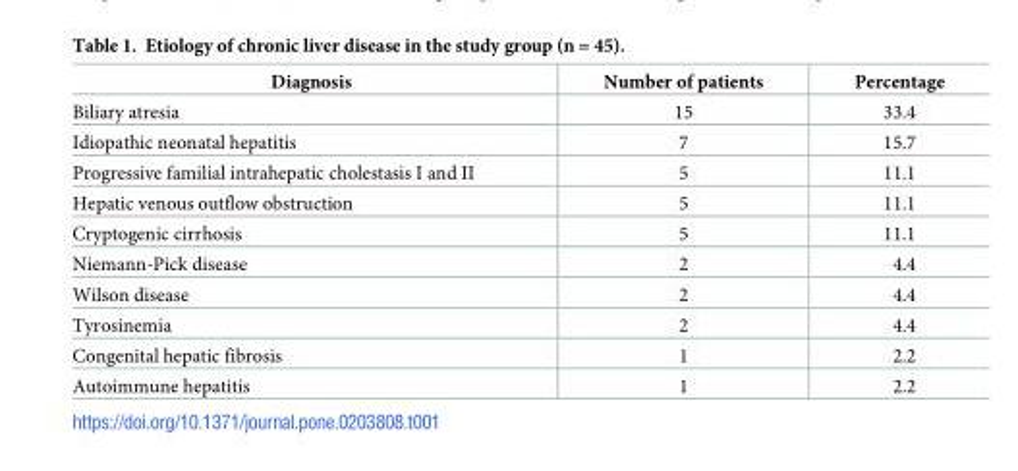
<table><thead><tr><td>Diagnosis</td><td>Number of patients</td><td>Percentage</td></tr></thead><tbody><tr><td>Biliary atresia</td><td>15</td><td>33.4</td></tr><tr><td>Idiopathic neonatal hepatitis</td><td>7</td><td>15.7</td></tr><tr><td>Progressive familial intrahepatic cholestasis I and II</td><td>5</td><td>11.1</td></tr><tr><td>Hepatic venous outflow obstruction</td><td>5</td><td>11.1</td></tr><tr><td>Cryptogenic cirrhosis</td><td>5</td><td>11.1</td></tr><tr><td>Niemann-Pick disease</td><td>2</td><td>4.4</td></tr><tr><td>Wilson disease</td><td>2</td><td>4.4</td></tr><tr><td>Tyrosinemia</td><td>2</td><td>4.4</td></tr><tr><td>Congenital hepatic fibrosis</td><td>1</td><td>2.2</td></tr><tr><td>Autoimmune hepatitis</td><td>1</td><td>2.2</td></tr></tbody></table>